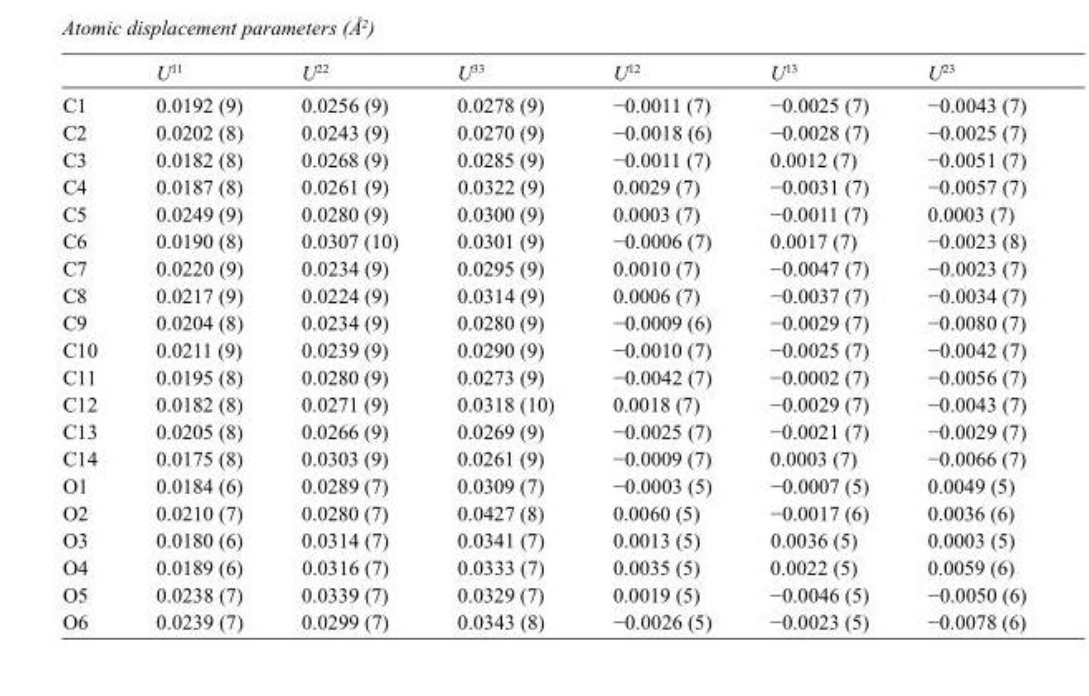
<table><thead><tr><td></td><td>U<sup>11</sup></td><td>U<sup>22</sup></td><td>U<sup>33</sup></td><td>U<sup>12</sup></td><td>U<sup>13</sup></td><td>U<sup>23</sup></td></tr></thead><tbody><tr><td>C1</td><td>0.0192 (9)</td><td>0.0256 (9)</td><td>0.0278 (9)</td><td>−0.0011 (7)</td><td>−0.0025 (7)</td><td>−0.0043 (7)</td></tr><tr><td>C2</td><td>0.0202 (8)</td><td>0.0243 (9)</td><td>0.0270 (9)</td><td>−0.0018 (6)</td><td>−0.0028 (7)</td><td>−0.0025 (7)</td></tr><tr><td>C3</td><td>0.0182 (8)</td><td>0.0268 (9)</td><td>0.0285 (9)</td><td>−0.0011 (7)</td><td>0.0012 (7)</td><td>−0.0051 (7)</td></tr><tr><td>C4</td><td>0.0187 (8)</td><td>0.0261 (9)</td><td>0.0322 (9)</td><td>0.0029 (7)</td><td>−0.0031 (7)</td><td>−0.0057 (7)</td></tr><tr><td>C5</td><td>0.0249 (9)</td><td>0.0280 (9)</td><td>0.0300 (9)</td><td>0.0003 (7)</td><td>−0.0011 (7)</td><td>0.0003 (7)</td></tr><tr><td>C6</td><td>0.0190 (8)</td><td>0.0307 (10)</td><td>0.0301 (9)</td><td>−0.0006 (7)</td><td>0.0017 (7)</td><td>−0.0023 (8)</td></tr><tr><td>C7</td><td>0.0220 (9)</td><td>0.0234 (9)</td><td>0.0295 (9)</td><td>0.0010 (7)</td><td>−0.0047 (7)</td><td>−0.0023 (7)</td></tr><tr><td>C8</td><td>0.0217 (9)</td><td>0.0224 (9)</td><td>0.0314 (9)</td><td>0.0006 (7)</td><td>−0.0037 (7)</td><td>−0.0034 (7)</td></tr><tr><td>C9</td><td>0.0204 (8)</td><td>0.0234 (9)</td><td>0.0280 (9)</td><td>−0.0009 (6)</td><td>−0.0029 (7)</td><td>−0.0080 (7)</td></tr><tr><td>C10</td><td>0.0211 (9)</td><td>0.0239 (9)</td><td>0.0290 (9)</td><td>−0.0010 (7)</td><td>−0.0025 (7)</td><td>−0.0042 (7)</td></tr><tr><td>C11</td><td>0.0195 (8)</td><td>0.0280 (9)</td><td>0.0273 (9)</td><td>−0.0042 (7)</td><td>−0.0002 (7)</td><td>−0.0056 (7)</td></tr><tr><td>C12</td><td>0.0182 (8)</td><td>0.0271 (9)</td><td>0.0318 (10)</td><td>0.0018 (7)</td><td>−0.0029 (7)</td><td>−0.0043 (7)</td></tr><tr><td>C13</td><td>0.0205 (8)</td><td>0.0266 (9)</td><td>0.0269 (9)</td><td>−0.0025 (7)</td><td>−0.0021 (7)</td><td>−0.0029 (7)</td></tr><tr><td>C14</td><td>0.0175 (8)</td><td>0.0303 (9)</td><td>0.0261 (9)</td><td>−0.0009 (7)</td><td>0.0003 (7)</td><td>−0.0066 (7)</td></tr><tr><td>O1</td><td>0.0184 (6)</td><td>0.0289 (7)</td><td>0.0309 (7)</td><td>−0.0003 (5)</td><td>−0.0007 (5)</td><td>0.0049 (5)</td></tr><tr><td>O2</td><td>0.0210 (7)</td><td>0.0280 (7)</td><td>0.0427 (8)</td><td>0.0060 (5)</td><td>−0.0017 (6)</td><td>0.0036 (6)</td></tr><tr><td>O3</td><td>0.0180 (6)</td><td>0.0314 (7)</td><td>0.0341 (7)</td><td>0.0013 (5)</td><td>0.0036 (5)</td><td>0.0003 (5)</td></tr><tr><td>O4</td><td>0.0189 (6)</td><td>0.0316 (7)</td><td>0.0333 (7)</td><td>0.0035 (5)</td><td>0.0022 (5)</td><td>0.0059 (6)</td></tr><tr><td>O5</td><td>0.0238 (7)</td><td>0.0339 (7)</td><td>0.0329 (7)</td><td>0.0019 (5)</td><td>−0.0046 (5)</td><td>−0.0050 (6)</td></tr><tr><td>O6</td><td>0.0239 (7)</td><td>0.0299 (7)</td><td>0.0343 (8)</td><td>−0.0026 (5)</td><td>−0.0023 (5)</td><td>−0.0078 (6)</td></tr></tbody></table>